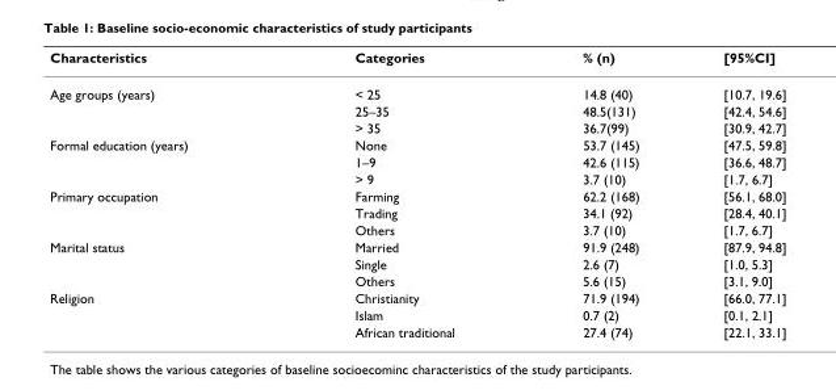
<table><thead><tr><td>Characteristics</td><td>Categories</td><td>% (n)</td><td>[95%CI]</td></tr></thead><tbody><tr><td rowspan="3">Age groups (years)</td><td>&lt; 25</td><td>14.8 (40)</td><td>[10.7, 19.6]</td></tr><tr><td>25–35</td><td>48.5(131)</td><td>[42.4, 54.6]</td></tr><tr><td>&gt; 35</td><td>36.7(99)</td><td>[30.9, 42.7]</td></tr><tr><td rowspan="3">Formal education (years)</td><td>None</td><td>53.7 (145)</td><td>[47.5, 59.8]</td></tr><tr><td>1–9</td><td>42.6 (115)</td><td>[36.6, 48.7]</td></tr><tr><td>&gt; 9</td><td>3.7 (10)</td><td>[1.7, 6.7]</td></tr><tr><td rowspan="3">Primary occupation</td><td>Farming</td><td>62.2 (168)</td><td>[56.1, 68.0]</td></tr><tr><td>Trading</td><td>34.1 (92)</td><td>[28.4, 40.1]</td></tr><tr><td>Others</td><td>3.7 (10)</td><td>[1.7, 6.7]</td></tr><tr><td rowspan="3">Marital status</td><td>Married</td><td>91.9 (248)</td><td>[87.9, 94.8]</td></tr><tr><td>Single</td><td>2.6 (7)</td><td>[1.0, 5.3]</td></tr><tr><td>Others</td><td>5.6 (15)</td><td>[3.1, 9.0]</td></tr><tr><td rowspan="3">Religion</td><td>Christianity</td><td>71.9 (194)</td><td>[66.0, 77.1]</td></tr><tr><td>Islam</td><td>0.7 (2)</td><td>[0.1, 2.1]</td></tr><tr><td>African traditional</td><td>27.4 (74)</td><td>[22.1, 33.1]</td></tr></tbody></table>